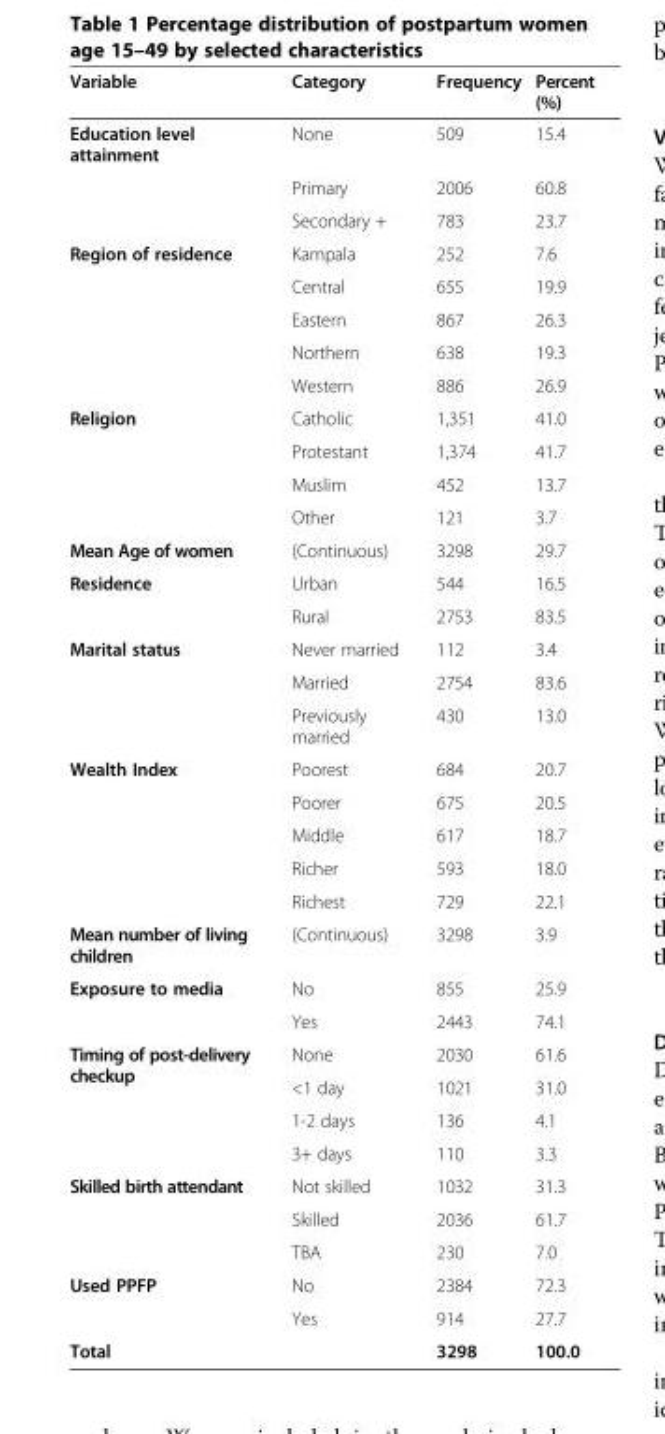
<table><thead><tr><td>Variable</td><td>Category</td><td>Frequency</td><td>Percent (%)</td></tr></thead><tbody><tr><td rowspan="3">Education level attainment</td><td>None</td><td>509</td><td>15.4</td></tr><tr><td>Primary</td><td>2006</td><td>60.8</td></tr><tr><td>Secondary +</td><td>783</td><td>23.7</td></tr><tr><td rowspan="5">Region of residence</td><td>Kampala</td><td>252</td><td>7.6</td></tr><tr><td>Central</td><td>655</td><td>19.9</td></tr><tr><td>Eastern</td><td>867</td><td>26.3</td></tr><tr><td>Northern</td><td>638</td><td>19.3</td></tr><tr><td>Western</td><td>886</td><td>26.9</td></tr><tr><td rowspan="4">Religion</td><td>Catholic</td><td>1,351</td><td>41.0</td></tr><tr><td>Protestant</td><td>1,374</td><td>41.7</td></tr><tr><td>Muslim</td><td>452</td><td>13.7</td></tr><tr><td>Other</td><td>121</td><td>3.7</td></tr><tr><td>Mean Age of women</td><td>(Continuous)</td><td>3298</td><td>29.7</td></tr><tr><td rowspan="2">Residence</td><td>Urban</td><td>544</td><td>16.5</td></tr><tr><td>Rural</td><td>2753</td><td>83.5</td></tr><tr><td rowspan="3">Marital status</td><td>Never married</td><td>112</td><td>3.4</td></tr><tr><td>Married</td><td>2754</td><td>83.6</td></tr><tr><td>Previously married</td><td>430</td><td>13.0</td></tr><tr><td rowspan="5">Wealth Index</td><td>Poorest</td><td>684</td><td>20.7</td></tr><tr><td>Poorer</td><td>675</td><td>20.5</td></tr><tr><td>Middle</td><td>617</td><td>18.7</td></tr><tr><td>Richer</td><td>593</td><td>18.0</td></tr><tr><td>Richest</td><td>729</td><td>22.1</td></tr><tr><td>Mean number of living children</td><td>(Continuous)</td><td>3298</td><td>3.9</td></tr><tr><td rowspan="2">Exposure to media</td><td>No</td><td>855</td><td>25.9</td></tr><tr><td>Yes</td><td>2443</td><td>74.1</td></tr><tr><td rowspan="4">Timing of post-delivery checkup</td><td>None</td><td>2030</td><td>61.6</td></tr><tr><td>&lt;1 day</td><td>1021</td><td>31.0</td></tr><tr><td>1-2 days</td><td>136</td><td>4.1</td></tr><tr><td>3+ days</td><td>110</td><td>3.3</td></tr><tr><td rowspan="3">Skilled birth attendant</td><td>Not skilled</td><td>1032</td><td>31.3</td></tr><tr><td>Skilled</td><td>2036</td><td>61.7</td></tr><tr><td>TBA</td><td>230</td><td>7.0</td></tr><tr><td rowspan="2">Used PPFP</td><td>No</td><td>2384</td><td>72.3</td></tr><tr><td>Yes</td><td>914</td><td>27.7</td></tr><tr><td>Total</td><td></td><td>3298</td><td>100.0</td></tr></tbody></table>